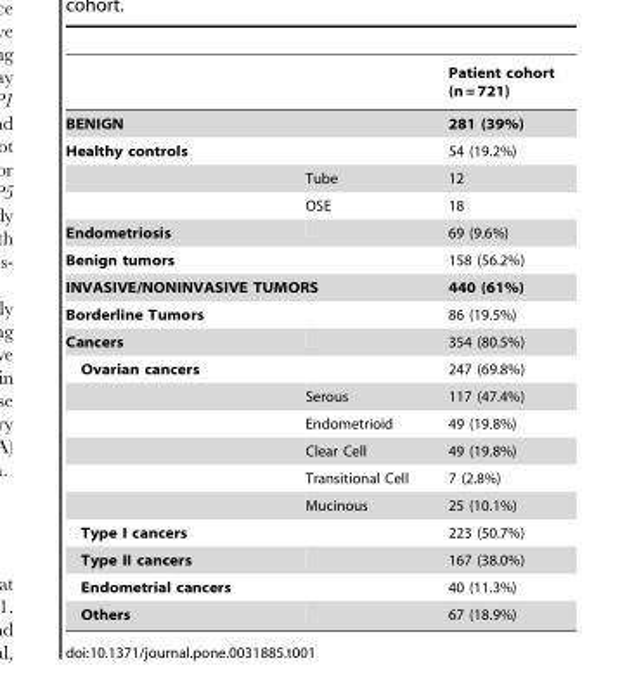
<table><thead><tr><td></td><td></td><td>Patient cohort (n = 721)</td></tr></thead><tbody><tr><td colspan="2">BENIGN</td><td>281 (39%)</td></tr><tr><td rowspan="3">Healthy controls</td><td></td><td>54 (19.2%)</td></tr><tr><td>Tube</td><td>12</td></tr><tr><td>OSE</td><td>18</td></tr><tr><td>Endometriosis</td><td></td><td>69 (9.6%)</td></tr><tr><td>Benign tumors</td><td></td><td>158 (56.2%)</td></tr><tr><td colspan="2">INVASIVE/NONINVASIVE TUMORS</td><td>440 (61%)</td></tr><tr><td>Borderline Tumors</td><td></td><td>86 (19.5%)</td></tr><tr><td>Cancers</td><td></td><td>354 (80.5%)</td></tr><tr><td rowspan="6">Ovarian cancers</td><td></td><td>247 (69.8%)</td></tr><tr><td>Serous</td><td>117 (47.4%)</td></tr><tr><td>Endometrioid</td><td>49 (19.8%)</td></tr><tr><td>Clear Cell</td><td>49 (19.8%)</td></tr><tr><td>Transitional Cell</td><td>7 (2.8%)</td></tr><tr><td>Mucinous</td><td>25 (10.1%)</td></tr><tr><td>Type I cancers</td><td></td><td>223 (50.7%)</td></tr><tr><td>Type II cancers</td><td></td><td>167 (38.0%)</td></tr><tr><td>Endometrial cancers</td><td></td><td>40 (11.3%)</td></tr><tr><td>Others</td><td></td><td>67 (18.9%)</td></tr></tbody></table>